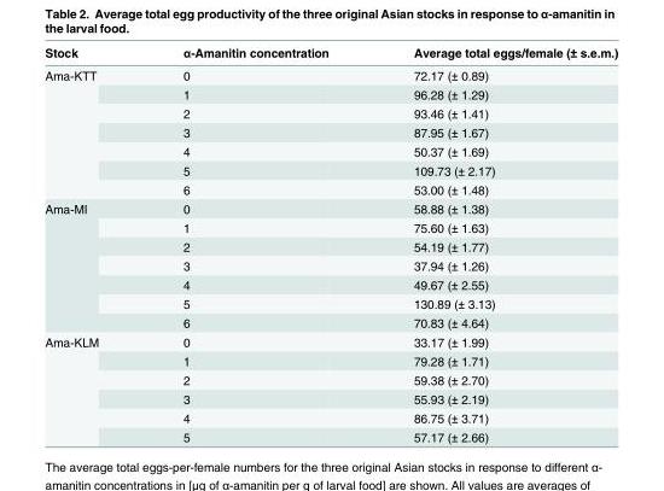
<table><thead><tr><td>Stock</td><td>α-Amanitin concentration</td><td>Average total eggs/female (± s.e.m.)</td></tr></thead><tbody><tr><td rowspan="7">Ama-KTT</td><td>0</td><td>72.17 (± 0.89)</td></tr><tr><td>1</td><td>96.28 (± 1.29)</td></tr><tr><td>2</td><td>93.46 (± 1.41)</td></tr><tr><td>3</td><td>87.95 (± 1.67)</td></tr><tr><td>4</td><td>50.37 (± 1.69)</td></tr><tr><td>5</td><td>109.73 (± 2.17)</td></tr><tr><td>6</td><td>53.00 (± 1.48)</td></tr><tr><td rowspan="7">Ama-MI</td><td>0</td><td>58.88 (± 1.38)</td></tr><tr><td>1</td><td>75.60 (± 1.63)</td></tr><tr><td>2</td><td>54.19 (± 1.77)</td></tr><tr><td>3</td><td>37.94 (± 1.26)</td></tr><tr><td>4</td><td>49.67 (± 2.55)</td></tr><tr><td>5</td><td>130.89 (± 3.13)</td></tr><tr><td>6</td><td>70.83 (± 4.64)</td></tr><tr><td rowspan="6">Ama-KLM</td><td>0</td><td>33.17 (± 1.99)</td></tr><tr><td>1</td><td>79.28 (± 1.71)</td></tr><tr><td>2</td><td>59.38 (± 2.70)</td></tr><tr><td>3</td><td>55.93 (± 2.19)</td></tr><tr><td>4</td><td>86.75 (± 3.71)</td></tr><tr><td>5</td><td>57.17 (± 2.66)</td></tr></tbody></table>